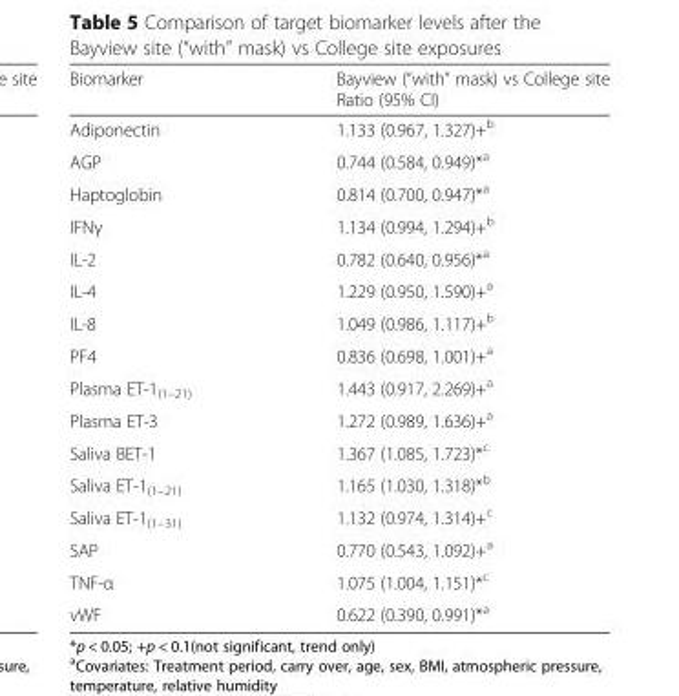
<table><thead><tr><td>Biomarker</td><td>Bayview (“with” mask) vs College site Ratio (95% CI)</td></tr></thead><tbody><tr><td>Adiponectin</td><td>1.133 (0.967, 1.327)+<sup>b</sup></td></tr><tr><td>AGP</td><td>0.744 (0.584, 0.949)*<sup>a</sup></td></tr><tr><td>Haptoglobin</td><td>0.814 (0.700, 0.947)*<sup>a</sup></td></tr><tr><td>IFNγ</td><td>1.134 (0.994, 1.294)+<sup>b</sup></td></tr><tr><td>IL-2</td><td>0.782 (0.640, 0.956)*<sup>a</sup></td></tr><tr><td>IL-4</td><td>1.229 (0.950, 1.590)+<sup>a</sup></td></tr><tr><td>IL-8</td><td>1.049 (0.986, 1.117)+<sup>b</sup></td></tr><tr><td>PF4</td><td>0.836 (0.698, 1.001)+<sup>a</sup></td></tr><tr><td>Plasma ET-1<sub>(1–21)</sub></td><td>1.443 (0.917, 2.269)+<sup>a</sup></td></tr><tr><td>Plasma ET-3</td><td>1.272 (0.989, 1.636)+<sup>a</sup></td></tr><tr><td>Saliva BET-1</td><td>1.367 (1.085, 1.723)*<sup>c</sup></td></tr><tr><td>Saliva ET-1<sub>(1–21)</sub></td><td>1.165 (1.030, 1.318)*<sup>b</sup></td></tr><tr><td>Saliva ET-1<sub>(1–31)</sub></td><td>1.132 (0.974, 1.314)+<sup>c</sup></td></tr><tr><td>SAP</td><td>0.770 (0.543, 1.092)+<sup>a</sup></td></tr><tr><td>TNF-α</td><td>1.075 (1.004, 1.151)*<sup>c</sup></td></tr><tr><td>vWF</td><td>0.622 (0.390, 0.991)*<sup>a</sup></td></tr></tbody></table>